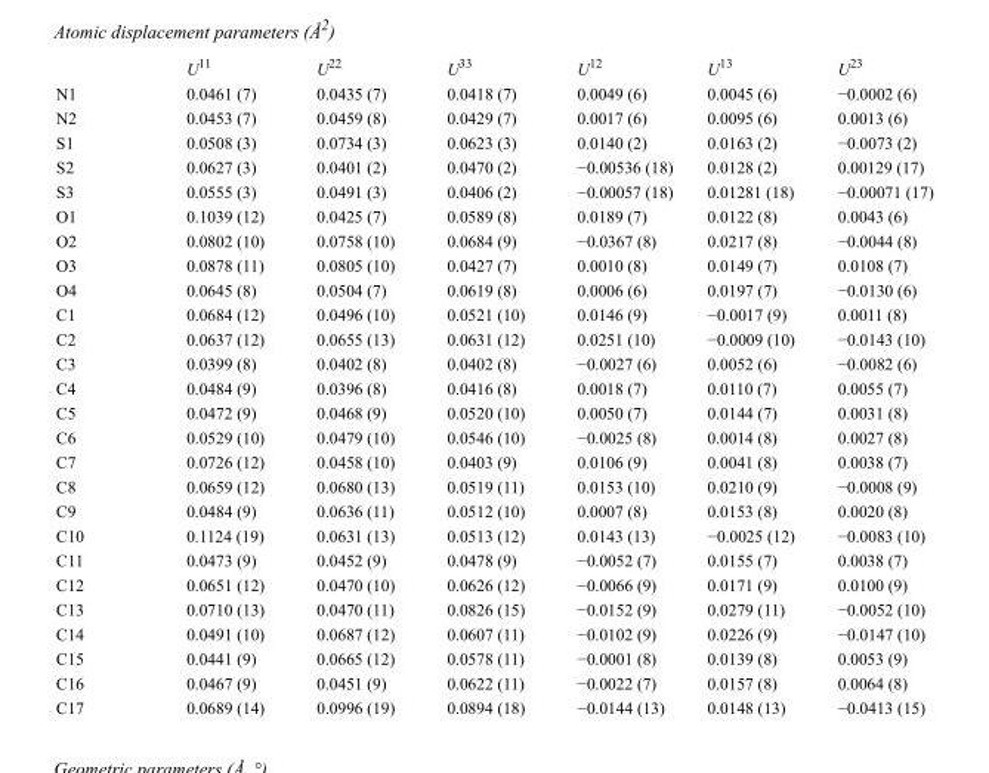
<table><thead><tr><td></td><td>U<sup>11</sup></td><td>U<sup>22</sup></td><td>U<sup>33</sup></td><td>U<sup>12</sup></td><td>U<sup>13</sup></td><td>U<sup>23</sup></td></tr></thead><tbody><tr><td>N1</td><td>0.0461 (7)</td><td>0.0435 (7)</td><td>0.0418 (7)</td><td>0.0049 (6)</td><td>0.0045 (6)</td><td>−0.0002 (6)</td></tr><tr><td>N2</td><td>0.0453 (7)</td><td>0.0459 (8)</td><td>0.0429 (7)</td><td>0.0017 (6)</td><td>0.0095 (6)</td><td>0.0013 (6)</td></tr><tr><td>S1</td><td>0.0508 (3)</td><td>0.0734 (3)</td><td>0.0623 (3)</td><td>0.0140 (2)</td><td>0.0163 (2)</td><td>−0.0073 (2)</td></tr><tr><td>S2</td><td>0.0627 (3)</td><td>0.0401 (2)</td><td>0.0470 (2)</td><td>−0.00536 (18)</td><td>0.0128 (2)</td><td>0.00129 (17)</td></tr><tr><td>S3</td><td>0.0555 (3)</td><td>0.0491 (3)</td><td>0.0406 (2)</td><td>−0.00057 (18)</td><td>0.01281 (18)</td><td>−0.00071 (17)</td></tr><tr><td>O1</td><td>0.1039 (12)</td><td>0.0425 (7)</td><td>0.0589 (8)</td><td>0.0189 (7)</td><td>0.0122 (8)</td><td>0.0043 (6)</td></tr><tr><td>O2</td><td>0.0802 (10)</td><td>0.0758 (10)</td><td>0.0684 (9)</td><td>−0.0367 (8)</td><td>0.0217 (8)</td><td>−0.0044 (8)</td></tr><tr><td>O3</td><td>0.0878 (11)</td><td>0.0805 (10)</td><td>0.0427 (7)</td><td>0.0010 (8)</td><td>0.0149 (7)</td><td>0.0108 (7)</td></tr><tr><td>O4</td><td>0.0645 (8)</td><td>0.0504 (7)</td><td>0.0619 (8)</td><td>0.0006 (6)</td><td>0.0197 (7)</td><td>−0.0130 (6)</td></tr><tr><td>C1</td><td>0.0684 (12)</td><td>0.0496 (10)</td><td>0.0521 (10)</td><td>0.0146 (9)</td><td>−0.0017 (9)</td><td>0.0011 (8)</td></tr><tr><td>C2</td><td>0.0637 (12)</td><td>0.0655 (13)</td><td>0.0631 (12)</td><td>0.0251 (10)</td><td>−0.0009 (10)</td><td>−0.0143 (10)</td></tr><tr><td>C3</td><td>0.0399 (8)</td><td>0.0402 (8)</td><td>0.0402 (8)</td><td>−0.0027 (6)</td><td>0.0052 (6)</td><td>−0.0082 (6)</td></tr><tr><td>C4</td><td>0.0484 (9)</td><td>0.0396 (8)</td><td>0.0416 (8)</td><td>0.0018 (7)</td><td>0.0110 (7)</td><td>0.0055 (7)</td></tr><tr><td>C5</td><td>0.0472 (9)</td><td>0.0468 (9)</td><td>0.0520 (10)</td><td>0.0050 (7)</td><td>0.0144 (7)</td><td>0.0031 (8)</td></tr><tr><td>C6</td><td>0.0529 (10)</td><td>0.0479 (10)</td><td>0.0546 (10)</td><td>−0.0025 (8)</td><td>0.0014 (8)</td><td>0.0027 (8)</td></tr><tr><td>C7</td><td>0.0726 (12)</td><td>0.0458 (10)</td><td>0.0403 (9)</td><td>0.0106 (9)</td><td>0.0041 (8)</td><td>0.0038 (7)</td></tr><tr><td>C8</td><td>0.0659 (12)</td><td>0.0680 (13)</td><td>0.0519 (11)</td><td>0.0153 (10)</td><td>0.0210 (9)</td><td>−0.0008 (9)</td></tr><tr><td>C9</td><td>0.0484 (9)</td><td>0.0636 (11)</td><td>0.0512 (10)</td><td>0.0007 (8)</td><td>0.0153 (8)</td><td>0.0020 (8)</td></tr><tr><td>C10</td><td>0.1124 (19)</td><td>0.0631 (13)</td><td>0.0513 (12)</td><td>0.0143 (13)</td><td>−0.0025 (12)</td><td>−0.0083 (10)</td></tr><tr><td>C11</td><td>0.0473 (9)</td><td>0.0452 (9)</td><td>0.0478 (9)</td><td>−0.0052 (7)</td><td>0.0155 (7)</td><td>0.0038 (7)</td></tr><tr><td>C12</td><td>0.0651 (12)</td><td>0.0470 (10)</td><td>0.0626 (12)</td><td>−0.0066 (9)</td><td>0.0171 (9)</td><td>0.0100 (9)</td></tr><tr><td>C13</td><td>0.0710 (13)</td><td>0.0470 (11)</td><td>0.0826 (15)</td><td>−0.0152 (9)</td><td>0.0279 (11)</td><td>−0.0052 (10)</td></tr><tr><td>C14</td><td>0.0491 (10)</td><td>0.0687 (12)</td><td>0.0607 (11)</td><td>−0.0102 (9)</td><td>0.0226 (9)</td><td>−0.0147 (10)</td></tr><tr><td>C15</td><td>0.0441 (9)</td><td>0.0665 (12)</td><td>0.0578 (11)</td><td>−0.0001 (8)</td><td>0.0139 (8)</td><td>0.0053 (9)</td></tr><tr><td>C16</td><td>0.0467 (9)</td><td>0.0451 (9)</td><td>0.0622 (11)</td><td>−0.0022 (7)</td><td>0.0157 (8)</td><td>0.0064 (8)</td></tr><tr><td>C17</td><td>0.0689 (14)</td><td>0.0996 (19)</td><td>0.0894 (18)</td><td>−0.0144 (13)</td><td>0.0148 (13)</td><td>−0.0413 (15)</td></tr></tbody></table>